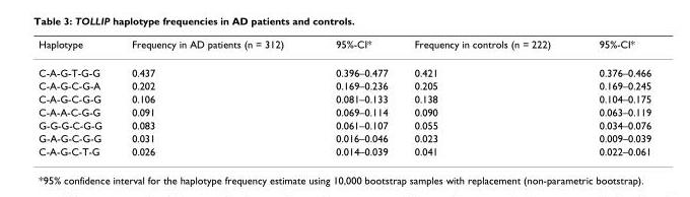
<table><thead><tr><td>Haplotype</td><td>Frequency in AD patients (n = 312)</td><td>95%-CI*</td><td>Frequency in controls (n = 222)</td><td>95%-CI*</td></tr></thead><tbody><tr><td>C-A-G-T-G-G</td><td>0.437</td><td>0.396–0.477</td><td>0.421</td><td>0.376–0.466</td></tr><tr><td>C-A-G-C-G-A</td><td>0.202</td><td>0.169–0.236</td><td>0.205</td><td>0.169–0.245</td></tr><tr><td>C-A-G-C-G-G</td><td>0.106</td><td>0.081–0.133</td><td>0.138</td><td>0.104–0.175</td></tr><tr><td>C-A-A-C-G-G</td><td>0.091</td><td>0.069–0.114</td><td>0.090</td><td>0.063–0.119</td></tr><tr><td>G-G-G-C-G-G</td><td>0.083</td><td>0.061–0.107</td><td>0.055</td><td>0.034–0.076</td></tr><tr><td>G-A-G-C-G-G</td><td>0.031</td><td>0.016–0.046</td><td>0.023</td><td>0.009–0.039</td></tr><tr><td>C-A-G-C-T-G</td><td>0.026</td><td>0.014–0.039</td><td>0.041</td><td>0.022–0.061</td></tr></tbody></table>